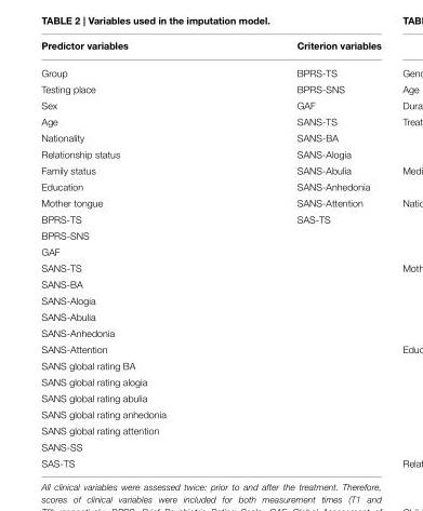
<table><thead><tr><td>Predictor variables</td><td>Criterion variables</td></tr></thead><tbody><tr><td>Group</td><td>BPRS-TS</td></tr><tr><td>Testing place</td><td>BPRS-SNS</td></tr><tr><td>Sex</td><td>GAF</td></tr><tr><td>Age</td><td>SANS-TS</td></tr><tr><td>Nationality</td><td>SANS-BA</td></tr><tr><td>Relationship status</td><td>SANS-Alogia</td></tr><tr><td>Family status</td><td>SANS-Abulia</td></tr><tr><td>Education</td><td>SANS-Anhedonia</td></tr><tr><td>Mother tongue</td><td>SANS-Attention</td></tr><tr><td>BPRS-TS</td><td>SAS-TS</td></tr><tr><td colspan="2">BPRS-SNS</td></tr><tr><td colspan="2">GAF</td></tr><tr><td colspan="2">SANS-TS</td></tr><tr><td colspan="2">SANS-BA</td></tr><tr><td colspan="2">SANS-Alogia</td></tr><tr><td colspan="2">SANS-Abulia</td></tr><tr><td colspan="2">SANS-Anhedonia</td></tr><tr><td colspan="2">SANS-Attention</td></tr><tr><td colspan="2">SANS global rating BA</td></tr><tr><td colspan="2">SANS global rating alogia</td></tr><tr><td colspan="2">SANS global rating abulia</td></tr><tr><td colspan="2">SANS global rating anhedonia</td></tr><tr><td colspan="2">SANS global rating attention</td></tr><tr><td colspan="2">SANS-SS</td></tr><tr><td>SAS-TS</td><td></td></tr></tbody></table>